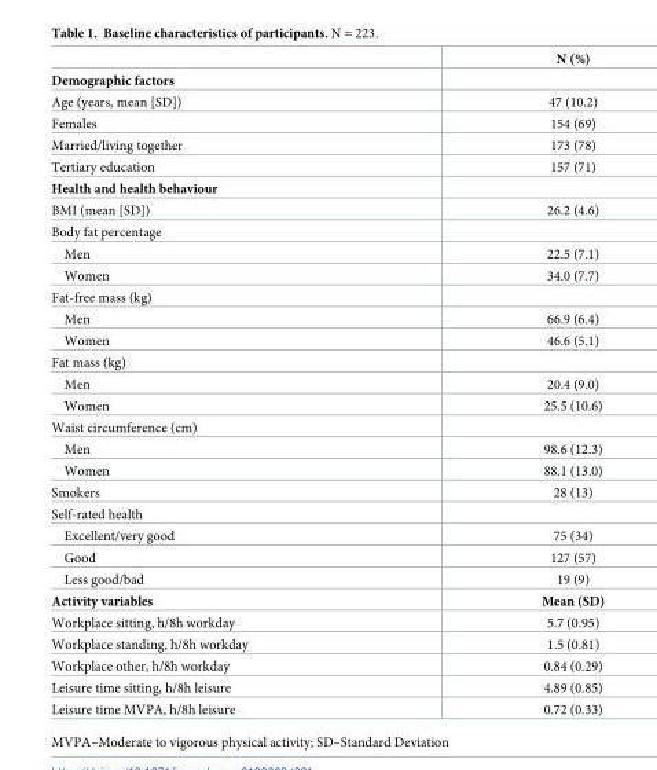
<table><thead><tr><td></td><td>N (%)</td></tr></thead><tbody><tr><td colspan="2">Demographic factors</td></tr><tr><td>Age (years, mean [SD])</td><td>47 (10.2)</td></tr><tr><td>Females</td><td>154 (69)</td></tr><tr><td>Married/living together</td><td>173 (78)</td></tr><tr><td>Tertiary education</td><td>157 (71)</td></tr><tr><td colspan="2">Health and health behaviour</td></tr><tr><td>BMI (mean [SD])</td><td>26.2 (4.6)</td></tr><tr><td colspan="2">Body fat percentage</td></tr><tr><td>Men</td><td>22.5 (7.1)</td></tr><tr><td>Women</td><td>34.0 (7.7)</td></tr><tr><td colspan="2">Fat-free mass (kg)</td></tr><tr><td>Men</td><td>66.9 (6.4)</td></tr><tr><td>Women</td><td>46.6 (5.1)</td></tr><tr><td colspan="2">Fat mass (kg)</td></tr><tr><td>Men</td><td>20.4 (9.0)</td></tr><tr><td>Women</td><td>25.5 (10.6)</td></tr><tr><td colspan="2">Waist circumference (cm)</td></tr><tr><td>Men</td><td>98.6 (12.3)</td></tr><tr><td>Women</td><td>88.1 (13.0)</td></tr><tr><td>Smokers</td><td>28 (13)</td></tr><tr><td colspan="2">Self-rated health</td></tr><tr><td>Excellent/very good</td><td>75 (34)</td></tr><tr><td>Good</td><td>127 (57)</td></tr><tr><td>Less good/bad</td><td>19 (9)</td></tr><tr><td>Activity variables</td><td>Mean (SD)</td></tr><tr><td>Workplace sitting, h/8h workday</td><td>5.7 (0.95)</td></tr><tr><td>Workplace standing, h/8h workday</td><td>1.5 (0.81)</td></tr><tr><td>Workplace other, h/8h workday</td><td>0.84 (0.29)</td></tr><tr><td>Leisure time sitting, h/8h leisure</td><td>4.89 (0.85)</td></tr><tr><td>Leisure time MVPA, h/8h leisure</td><td>0.72 (0.33)</td></tr></tbody></table>